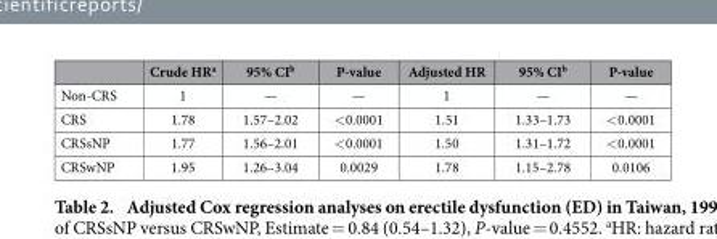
<table><thead><tr><td></td><td>Crude HR<sup>a</sup></td><td>95% CI<sup>b</sup></td><td>P-value</td><td>Adjusted HR</td><td>95% CI<sup>b</sup></td><td>P-value</td></tr></thead><tbody><tr><td>Non-CRS</td><td>1</td><td>—</td><td>—</td><td>1</td><td>—</td><td>—</td></tr><tr><td>CRS</td><td>1.78</td><td>1.57–2.02</td><td>&lt; 0.0001</td><td>1.51</td><td>1.33–1.73</td><td>&lt; 0.0001</td></tr><tr><td>CRSsNP</td><td>1.77</td><td>1.56–2.01</td><td>&lt; 0.0001</td><td>1.50</td><td>1.31–1.72</td><td>&lt; 0.0001</td></tr><tr><td>CRSwNP</td><td>1.95</td><td>1.26–3.04</td><td>0.0029</td><td>1.78</td><td>1.15–2.78</td><td>0.0106</td></tr></tbody></table>